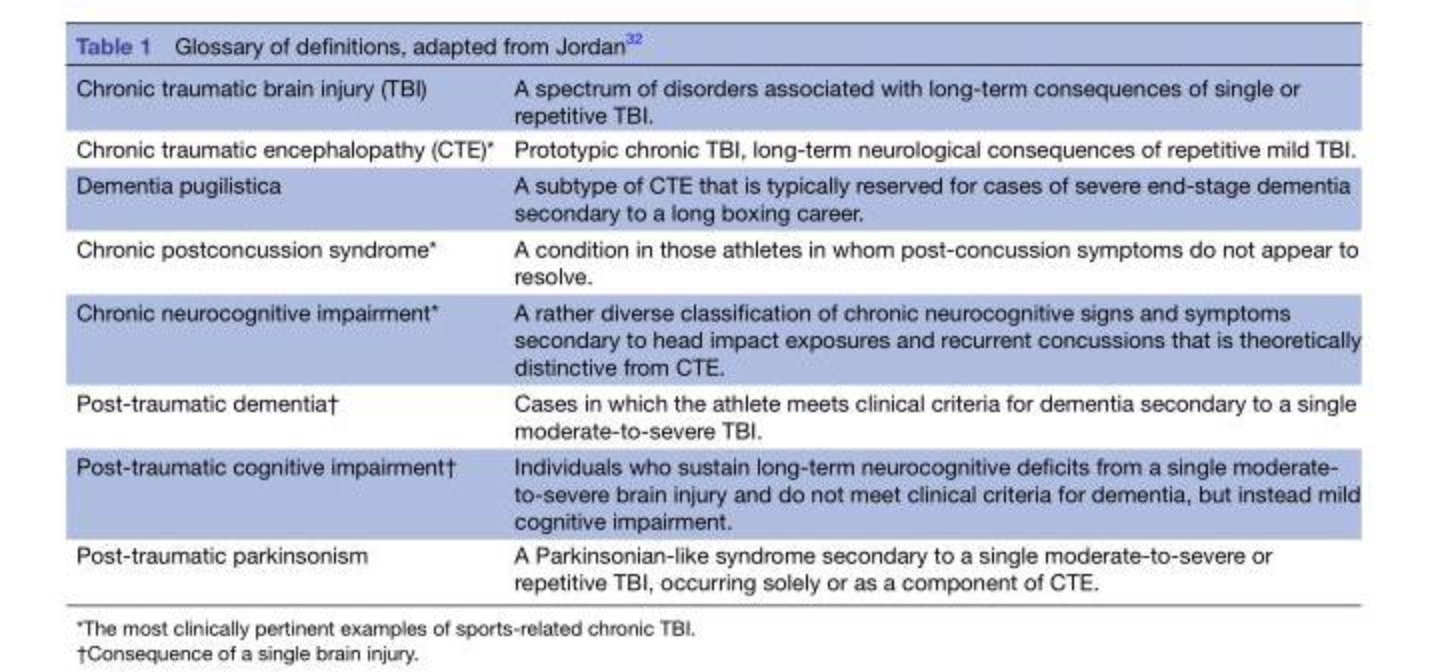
<table><tbody><tr><td>Chronic traumatic brain injury (TBI)</td><td>A spectrum of disorders associated with long-term consequences of single or repetitive TBI.</td></tr><tr><td>Chronic traumatic encephalopathy (CTE)*</td><td>Prototypic chronic TBI, long-term neurological consequences of repetitive mild TBI.</td></tr><tr><td>Dementia pugilistica</td><td>A subtype of CTE that is typically reserved for cases of severe end-stage dementia secondary to a long boxing career.</td></tr><tr><td>Chronic postconcussion syndrome*</td><td>A condition in those athletes in whom post-concussion symptoms do not appear to resolve.</td></tr><tr><td>Chronic neurocognitive impairment*</td><td>A rather diverse classification of chronic neurocognitive signs and symptoms secondary to head impact exposures and recurrent concussions that is theoretically distinctive from CTE.</td></tr><tr><td>Post-traumatic dementia†</td><td>Cases in which the athlete meets clinical criteria for dementia secondary to a single moderate-to-severe TBI.</td></tr><tr><td>Post-traumatic cognitive impairment†</td><td>Individuals who sustain long-term neurocognitive deficits from a single moderate- to-severe brain injury and do not meet clinical criteria for dementia, but instead mild cognitive impairment.</td></tr><tr><td>Post-traumatic parkinsonism</td><td>A Parkinsonian-like syndrome secondary to a single moderate-to-severe or repetitive TBI, occurring solely or as a component of CTE.</td></tr></tbody></table>